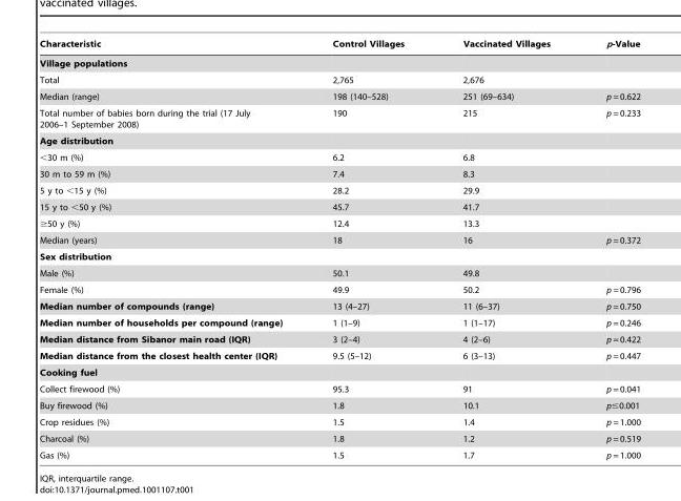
<table><thead><tr><td>Characteristic</td><td>Control Villages</td><td>Vaccinated Villages</td><td>p-Value</td></tr></thead><tbody><tr><td colspan="4">Village populations</td></tr><tr><td>Total</td><td>2,765</td><td>2,676</td><td></td></tr><tr><td>Median (range)</td><td>198 (140–528)</td><td>251 (69–634)</td><td>p = 0.622</td></tr><tr><td>Total number of babies born during the trial (17 July 2006–1 September 2008)</td><td>190</td><td>215</td><td>p = 0.233</td></tr><tr><td colspan="4">Age distribution</td></tr><tr><td>&lt;30 m (%)</td><td>6.2</td><td>6.8</td><td></td></tr><tr><td>30 m to 59 m (%)</td><td>7.4</td><td>8.3</td><td></td></tr><tr><td>5 y to &lt;15 y (%)</td><td>28.2</td><td>29.9</td><td></td></tr><tr><td>15 y to &lt;50 y (%)</td><td>45.7</td><td>41.7</td><td></td></tr><tr><td>≥50 y (%)</td><td>12.4</td><td>13.3</td><td></td></tr><tr><td>Median (years)</td><td>18</td><td>16</td><td>p = 0.372</td></tr><tr><td colspan="4">Sex distribution</td></tr><tr><td>Male (%)</td><td>50.1</td><td>49.8</td><td></td></tr><tr><td>Female (%)</td><td>49.9</td><td>50.2</td><td>p = 0.796</td></tr><tr><td>Median number of compounds (range)</td><td>13 (4–27)</td><td>11 (6–37)</td><td>p = 0.750</td></tr><tr><td>Median number of households per compound (range)</td><td>1 (1–9)</td><td>1 (1–17)</td><td>p = 0.246</td></tr><tr><td>Median distance from Sibanor main road (IQR)</td><td>3 (2–4)</td><td>4 (2–6)</td><td>p = 0.422</td></tr><tr><td>Median distance from the closest health center (IQR)</td><td>9.5 (5–12)</td><td>6 (3–13)</td><td>p = 0.447</td></tr><tr><td colspan="4">Cooking fuel</td></tr><tr><td>Collect firewood (%)</td><td>95.3</td><td>91</td><td>p = 0.041</td></tr><tr><td>Buy firewood (%)</td><td>1.8</td><td>10.1</td><td>p≤0.001</td></tr><tr><td>Crop residues (%)</td><td>1.5</td><td>1.4</td><td>p = 1.000</td></tr><tr><td>Charcoal (%)</td><td>1.8</td><td>1.2</td><td>p = 0.519</td></tr><tr><td>Gas (%)</td><td>1.5</td><td>1.7</td><td>p = 1.000</td></tr></tbody></table>